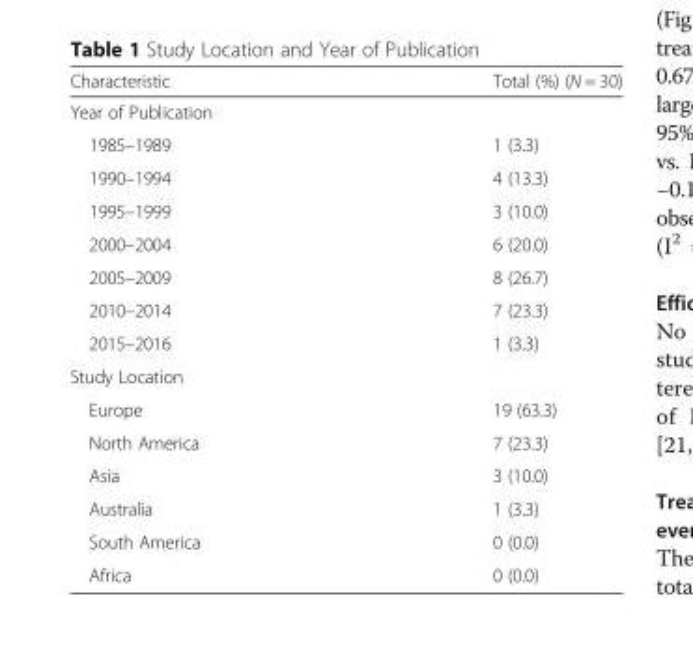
<table><thead><tr><td>Characteristic</td><td>Total (%) (N = 30)</td></tr></thead><tbody><tr><td colspan="2">Year of Publication</td></tr><tr><td>1985–1989</td><td>1 (3.3)</td></tr><tr><td>1990–1994</td><td>4 (13.3)</td></tr><tr><td>1995–1999</td><td>3 (10.0)</td></tr><tr><td>2000–2004</td><td>6 (20.0)</td></tr><tr><td>2005–2009</td><td>8 (26.7)</td></tr><tr><td>2010–2014</td><td>7 (23.3)</td></tr><tr><td>2015–2016</td><td>1 (3.3)</td></tr><tr><td colspan="2">Study Location</td></tr><tr><td>Europe</td><td>19 (63.3)</td></tr><tr><td>North America</td><td>7 (23.3)</td></tr><tr><td>Asia</td><td>3 (10.0)</td></tr><tr><td>Australia</td><td>1 (3.3)</td></tr><tr><td>South America</td><td>0 (0.0)</td></tr><tr><td>Africa</td><td>0 (0.0)</td></tr></tbody></table>